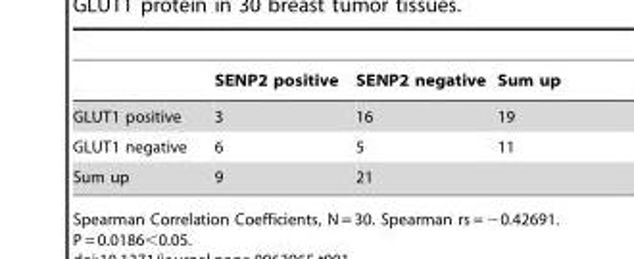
<table><thead><tr><td></td><td>SENP2 positive</td><td>SENP2 negative</td><td>Sum up</td></tr></thead><tbody><tr><td>GLUT1 positive</td><td>3</td><td>16</td><td>19</td></tr><tr><td>GLUT1 negative</td><td>6</td><td>5</td><td>11</td></tr><tr><td>Sum up</td><td>9</td><td>21</td><td></td></tr></tbody></table>